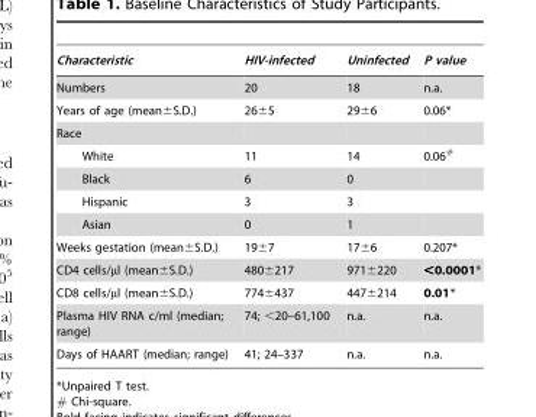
<table><thead><tr><td rowspan="3" colspan="2">Characteristic Numbers Years of age (mean±S.D.)</td><td rowspan="4">HIV-infected 20 26±5</td><td rowspan="4">Uninfected 18 29±6</td><td rowspan="4">P value n.a. 0.06*</td></tr><tr></tr><tr></tr><tr><td>Race</td><td></td></tr></thead><tbody><tr><td></td><td>White</td><td>11</td><td>14</td><td>0.06<sup>#</sup></td></tr><tr><td></td><td>Black</td><td>6</td><td>0</td><td></td></tr><tr><td></td><td>Hispanic</td><td>3</td><td>3</td><td></td></tr><tr><td></td><td>Asian</td><td>0</td><td>1</td><td></td></tr><tr><td colspan="2">Weeks gestation (mean±S.D.)</td><td>19±7</td><td>17±6</td><td>0.207*</td></tr><tr><td colspan="2">CD4 cells/µl (mean±S.D.)</td><td>480±217</td><td>971±220</td><td>&lt;0.0001*</td></tr><tr><td colspan="2">CD8 cells/µl (mean±S.D.)</td><td>774±437</td><td>447±214</td><td>0.01*</td></tr><tr><td colspan="2">Plasma HIV RNA c/ml (median; range)</td><td>74; &lt;20–61,100</td><td>n.a.</td><td>n.a.</td></tr><tr><td colspan="2">Days of HAART (median; range)</td><td>41; 24–337</td><td>n.a.</td><td>n.a.</td></tr></tbody></table>